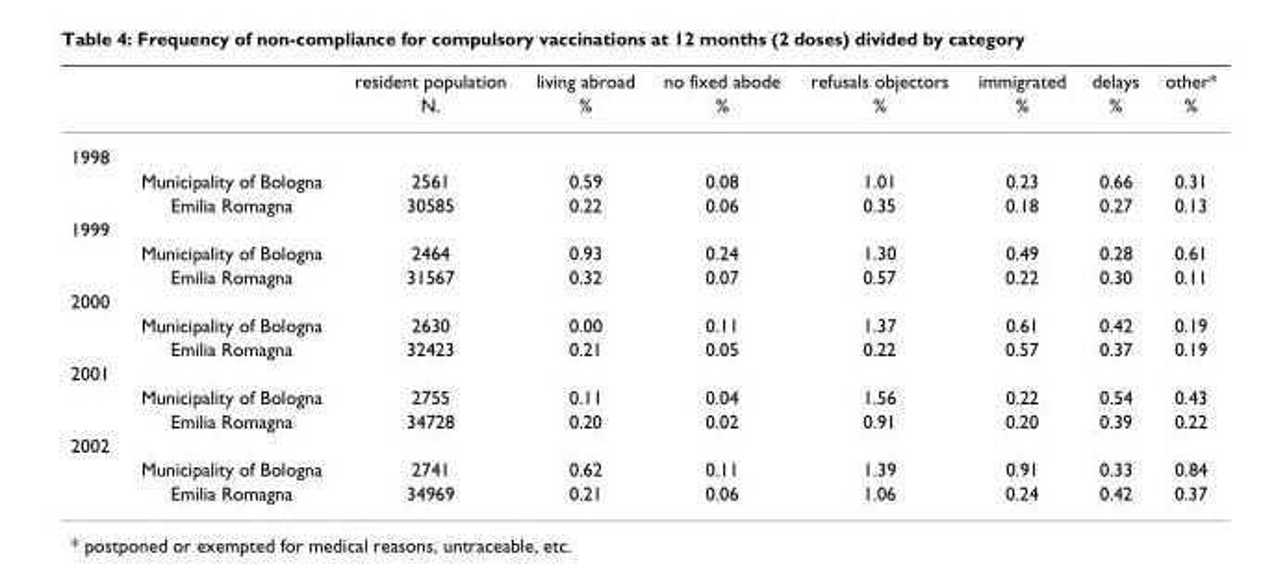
<table><thead><tr><td rowspan="2"></td><td rowspan="2"></td><td rowspan="2">resident population N.</td><td rowspan="2">living abroad %</td><td rowspan="2">no fixed abode %</td><td rowspan="2">refusals objectors %</td><td rowspan="2">immigrated %</td><td rowspan="2">delays %</td><td rowspan="2">other* %</td></tr><tr></tr></thead><tbody><tr><td colspan="9">1998</td></tr><tr><td></td><td>Municipality of Bologna</td><td>2561</td><td>0.59</td><td>0.08</td><td>1.01</td><td>0.23</td><td>0.66</td><td>0.31</td></tr><tr><td></td><td>Emilia Romagna</td><td>30585</td><td>0.22</td><td>0.06</td><td>0.35</td><td>0.18</td><td>0.27</td><td>0.13</td></tr><tr><td colspan="9">1999</td></tr><tr><td></td><td>Municipality of Bologna</td><td>2464</td><td>0.93</td><td>0.24</td><td>1.30</td><td>0.49</td><td>0.28</td><td>0.61</td></tr><tr><td></td><td>Emilia Romagna</td><td>31567</td><td>0.32</td><td>0.07</td><td>0.57</td><td>0.22</td><td>0.30</td><td>0.11</td></tr><tr><td colspan="9">2000</td></tr><tr><td></td><td>Municipality of Bologna</td><td>2630</td><td>0.00</td><td>0.11</td><td>1.37</td><td>0.61</td><td>0.42</td><td>0.19</td></tr><tr><td></td><td>Emilia Romagna</td><td>32423</td><td>0.21</td><td>0.05</td><td>0.22</td><td>0.57</td><td>0.37</td><td>0.19</td></tr><tr><td colspan="9">2001</td></tr><tr><td></td><td>Municipality of Bologna</td><td>2755</td><td>0.11</td><td>0.04</td><td>1.56</td><td>0.22</td><td>0.54</td><td>0.43</td></tr><tr><td></td><td>Emilia Romagna</td><td>34728</td><td>0.20</td><td>0.02</td><td>0.91</td><td>0.20</td><td>0.39</td><td>0.22</td></tr><tr><td colspan="9">2002</td></tr><tr><td></td><td>Municipality of Bologna</td><td>2741</td><td>0.62</td><td>0.11</td><td>1.39</td><td>0.91</td><td>0.33</td><td>0.84</td></tr><tr><td></td><td>Emilia Romagna</td><td>34969</td><td>0.21</td><td>0.06</td><td>1.06</td><td>0.24</td><td>0.42</td><td>0.37</td></tr></tbody></table>